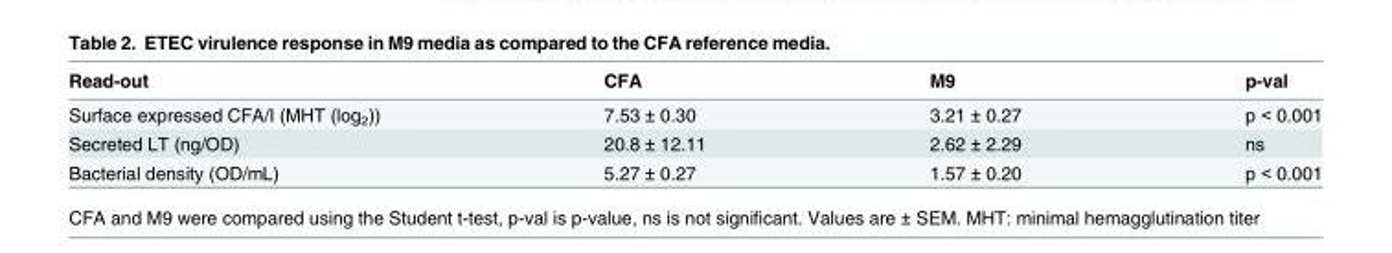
<table><thead><tr><td>Read-out</td><td>CFA</td><td>M9</td><td>p-val</td></tr></thead><tbody><tr><td>Surface expressed CFA/I (MHT (log<sub>2</sub>))</td><td>7.53 ± 0.30</td><td>3.21 ± 0.27</td><td>p &lt; 0.001</td></tr><tr><td>Secreted LT (ng/OD)</td><td>20.8 ± 12.11</td><td>2.62 ± 2.29</td><td>ns</td></tr><tr><td>Bacterial density (OD/mL)</td><td>5.27 ± 0.27</td><td>1.57 ± 0.20</td><td>p &lt; 0.001</td></tr></tbody></table>